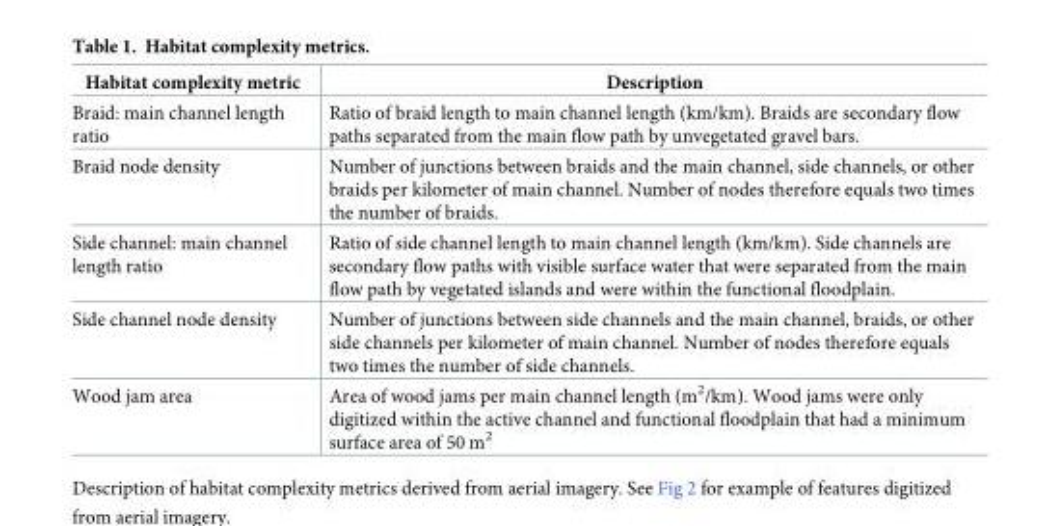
<table><thead><tr><td>Habitat complexity metric</td><td>Description</td></tr></thead><tbody><tr><td>Braid: main channel length ratio</td><td>Ratio of braid length to main channel length (km/km). Braids are secondary flow paths separated from the main flow path by unvegetated gravel bars.</td></tr><tr><td>Braid node density</td><td>Number of junctions between braids and the main channel, side channels, or other braids per kilometer of main channel. Number of nodes therefore equals two times the number of braids.</td></tr><tr><td>Side channel: main channel length ratio</td><td>Ratio of side channel length to main channel length (km/km). Side channels are secondary flow paths with visible surface water that were separated from the main flow path by vegetated islands and were within the functional floodplain.</td></tr><tr><td>Side channel node density</td><td>Number of junctions between side channels and the main channel, braids, or other side channels per kilometer of main channel. Number of nodes therefore equals two times the number of side channels.</td></tr><tr><td>Wood jam area</td><td>Area of wood jams per main channel length (m<sup>2</sup>/km). Wood jams were only digitized within the active channel and functional floodplain that had a minimum surface area of 50 m<sup>2</sup></td></tr></tbody></table>